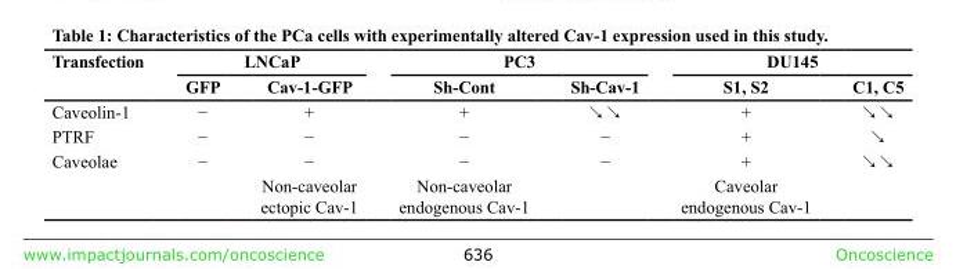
<table><thead><tr><td rowspan="2">Transfection</td><td colspan="2">LNCaP</td><td colspan="2">PC3</td><td colspan="2">DU145</td></tr><tr><td>GFP</td><td>Cav-1-GFP</td><td>Sh-Cont</td><td>Sh-Cav-1</td><td>S1, S2</td><td>C1, C5</td></tr></thead><tbody><tr><td>Caveolin-1</td><td>−</td><td>+</td><td>+</td><td>↘↘</td><td>+</td><td>↘↘</td></tr><tr><td>PTRF</td><td>−</td><td>−</td><td>−</td><td>−</td><td>+</td><td>↘</td></tr><tr><td rowspan="2">Caveolae</td><td>−</td><td>−</td><td>−</td><td>−</td><td>+</td><td>↘↘</td></tr><tr><td></td><td>Non-caveolar ectopic Cav-1</td><td>Non-caveolar endogenous Cav-1</td><td></td><td>Caveolar endogenous Cav-1</td><td></td></tr></tbody></table>